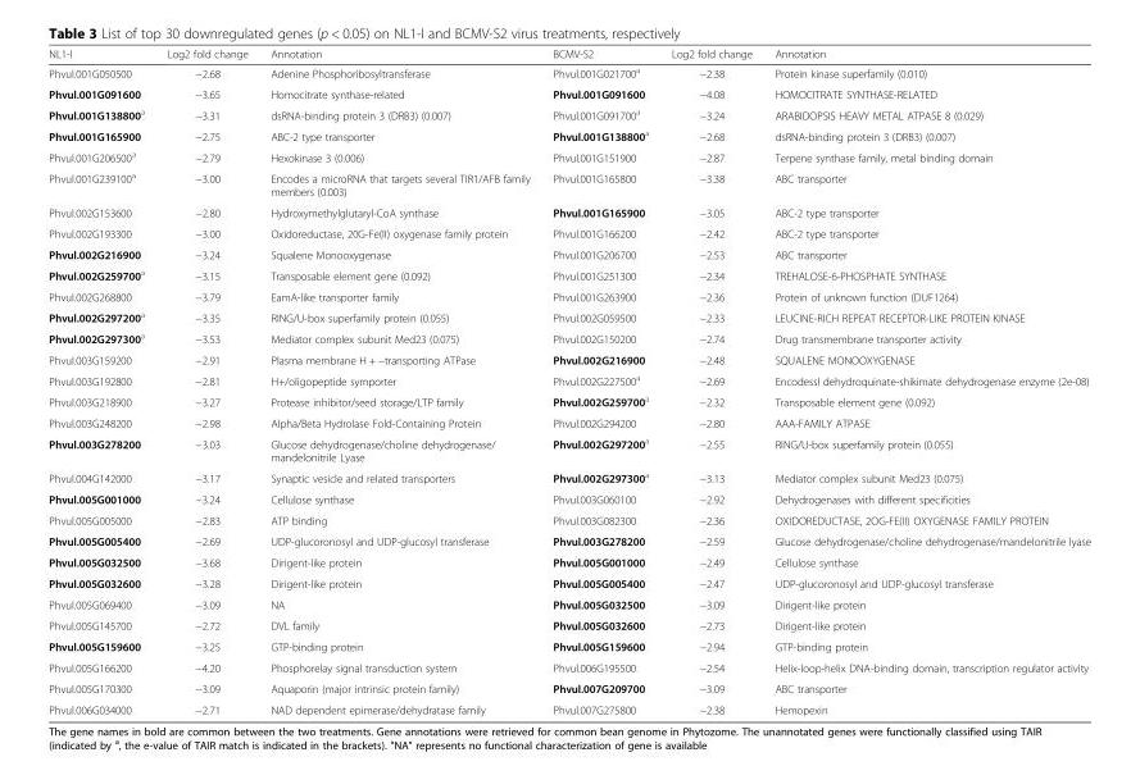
<table><thead><tr><td>NL1-I</td><td>Log2 fold change</td><td>Annotation</td><td>BCMV-S2</td><td>Log2 fold change</td><td>Annotation</td></tr></thead><tbody><tr><td>Phvul.001G050500</td><td>−2.68</td><td>Adenine Phosphoribosyltransferase</td><td>Phvul.001G021700<sup>a</sup></td><td>−2.38</td><td>Protein kinase superfamily (0.010)</td></tr><tr><td>Phvul.001G091600</td><td>−3.65</td><td>Homocitrate synthase-related</td><td>Phvul.001G091600</td><td>−4.08</td><td>HOMOCITRATE SYNTHASE-RELATED</td></tr><tr><td>Phvul.001G138800<sup>a</sup></td><td>−3.31</td><td>dsRNA-binding protein 3 (DRB3) (0.007)</td><td>Phvul.001G091700<sup>a</sup></td><td>−3.24</td><td>ARABIDOPSIS HEAVY METAL ATPASE 8 (0.029)</td></tr><tr><td>Phvul.001G165900</td><td>−2.75</td><td>ABC-2 type transporter</td><td>Phvul.001G138800<sup>a</sup></td><td>−2.68</td><td>dsRNA-binding protein 3 (DRB3) (0.007)</td></tr><tr><td>Phvul.001G206500<sup>a</sup></td><td>−2.79</td><td>Hexokinase 3 (0.006)</td><td>Phvul.001G151900</td><td>−2.87</td><td>Terpene synthase family, metal binding domain</td></tr><tr><td>Phvul.001G239100<sup>a</sup></td><td>−3.00</td><td>Encodes a microRNA that targets several TIR1/AFB family members (0.003)</td><td>Phvul.001G165800</td><td>−3.38</td><td>ABC transporter</td></tr><tr><td>Phvul.002G153600</td><td>−2.80</td><td>Hydroxymethylglutaryl-CoA synthase</td><td>Phvul.001G165900</td><td>−3.05</td><td>ABC-2 type transporter</td></tr><tr><td>Phvul.002G193300</td><td>−3.00</td><td>Oxidoreductase, 20G-Fe(II) oxygenase family protein</td><td>Phvul.001G166200</td><td>−2.42</td><td>ABC-2 type transporter</td></tr><tr><td>Phvul.002G216900</td><td>−3.24</td><td>Squalene Monooxygenase</td><td>Phvul.001G206700</td><td>−2.53</td><td>ABC transporter</td></tr><tr><td>Phvul.002G259700<sup>a</sup></td><td>−3.15</td><td>Transposable element gene (0.092)</td><td>Phvul.001G251300</td><td>−2.34</td><td>TREHALOSE-6-PHOSPHATE SYNTHASE</td></tr><tr><td>Phvul.002G268800</td><td>−3.79</td><td>EamA-like transporter family</td><td>Phvul.001G263900</td><td>−2.36</td><td>Protein of unknown function (DUF1264)</td></tr><tr><td>Phvul.002G297200<sup>a</sup></td><td>−3.35</td><td>RING/U-box superfamily protein (0.055)</td><td>Phvul.002G059500</td><td>−2.33</td><td>LEUCINE-RICH REPEAT RECEPTOR-LIKE PROTEIN KINASE</td></tr><tr><td>Phvul.002G297300<sup>a</sup></td><td>−3.53</td><td>Mediator complex subunit Med23 (0.075)</td><td>Phvul.002G150200</td><td>−2.74</td><td>Drug transmembrane transporter activity</td></tr><tr><td>Phvul.003G159200</td><td>−2.91</td><td>Plasma membrane H + −transporting ATPase</td><td>Phvul.002G216900</td><td>−2.48</td><td>SQUALENE MONOOXYGENASE</td></tr><tr><td>Phvul.003G192800</td><td>−2.81</td><td>H+/oligopeptide symporter</td><td>Phvul.002G227500<sup>a</sup></td><td>−2.69</td><td>Encodessl dehydroquinate-shikimate dehydrogenase enzyme (2e-08)</td></tr><tr><td>Phvul.003G218900</td><td>−3.27</td><td>Protease inhibitor/seed storage/LTP family</td><td>Phvul.002G259700<sup>a</sup></td><td>−2.32</td><td>Transposable element gene (0.092)</td></tr><tr><td>Phvul.003G248200</td><td>−2.98</td><td>Alpha/Beta Hydrolase Fold-Containing Protein</td><td>Phvul.002G294200</td><td>−2.80</td><td>AAA-FAMILY ATPASE</td></tr><tr><td>Phvul.003G278200</td><td>−3.03</td><td>Glucose dehydrogenase/choline dehydrogenase/ mandelonitrile Lyase</td><td>Phvul.002G297200<sup>a</sup></td><td>−2.55</td><td>RING/U-box superfamily protein (0.055)</td></tr><tr><td>Phvul.004G142000</td><td>−3.17</td><td>Synaptic vesicle and related transporters</td><td>Phvul.002G297300<sup>a</sup></td><td>−3.13</td><td>Mediator complex subunit Med23 (0.075)</td></tr><tr><td>Phvul.005G001000</td><td>−3.24</td><td>Cellulose synthase</td><td>Phvul.003G060100</td><td>−2.92</td><td>Dehydrogenases with different specificities</td></tr><tr><td>Phvul.005G005000</td><td>−2.83</td><td>ATP binding</td><td>Phvul.003G082300</td><td>−2.36</td><td>OXIDOREDUCTASE, 2OG-FE(II) OXYGENASE FAMILY PROTEIN</td></tr><tr><td>Phvul.005G005400</td><td>−2.69</td><td>UDP-glucoronosyl and UDP-glucosyl transferase</td><td>Phvul.003G278200</td><td>−2.59</td><td>Glucose dehydrogenase/choline dehydrogenase/mandelonitrile lyase</td></tr><tr><td>Phvul.005G032500</td><td>−3.68</td><td>Dirigent-like protein</td><td>Phvul.005G001000</td><td>−2.49</td><td>Cellulose synthase</td></tr><tr><td>Phvul.005G032600</td><td>−3.28</td><td>Dirigent-like protein</td><td>Phvul.005G005400</td><td>−2.47</td><td>UDP-glucoronosyl and UDP-glucosyl transferase</td></tr><tr><td>Phvul.005G069400</td><td>−3.09</td><td>NA</td><td>Phvul.005G032500</td><td>−3.09</td><td>Dirigent-like protein</td></tr><tr><td>Phvul.005G145700</td><td>−2.72</td><td>DVL family</td><td>Phvul.005G032600</td><td>−2.73</td><td>Dirigent-like protein</td></tr><tr><td>Phvul.005G159600</td><td>−3.25</td><td>GTP-binding protein</td><td>Phvul.005G159600</td><td>−2.94</td><td>GTP-binding protein</td></tr><tr><td>Phvul.005G166200</td><td>−4.20</td><td>Phosphorelay signal transduction system</td><td>Phvul.006G195500</td><td>−2.54</td><td>Helix-loop-helix DNA-binding domain, transcription regulator activity</td></tr><tr><td>Phvul.005G170300</td><td>−3.09</td><td>Aquaporin (major intrinsic protein family)</td><td>Phvul.007G209700</td><td>−3.09</td><td>ABC transporter</td></tr><tr><td>Phvul.006G034000</td><td>−2.71</td><td>NAD dependent epimerase/dehydratase family</td><td>Phvul.007G275800</td><td>−2.38</td><td>Hemopexin</td></tr></tbody></table>